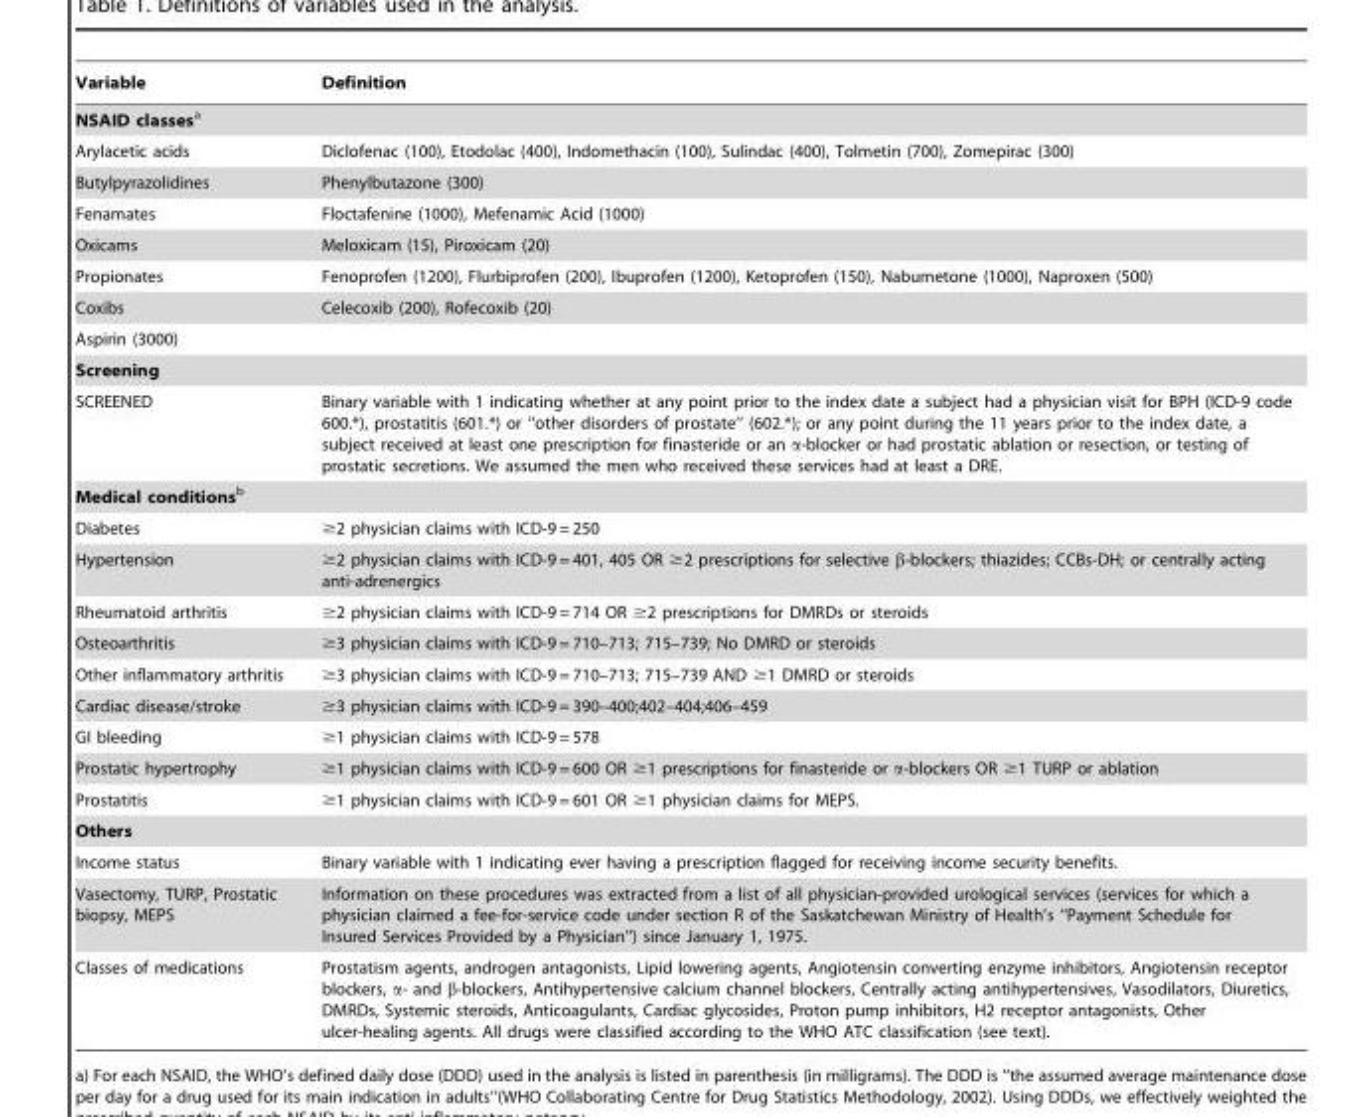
<table><thead><tr><td>Variable</td><td>Definition</td></tr></thead><tbody><tr><td colspan="2">NSAID classesa</td></tr><tr><td>Arylacetic acids</td><td>Diclofenac (100), Etodolac (400), Indomethacin (100), Sulindac (400), Tolmetin (700), Zomepirac (300)</td></tr><tr><td>Butylpyrazolidines</td><td>Phenylbutazone (300)</td></tr><tr><td>Fenamates</td><td>Floctafenine (1000), Mefenamic Acid (1000)</td></tr><tr><td>Oxicams</td><td>Meloxicam (15), Piroxicam (20)</td></tr><tr><td>Propionates</td><td>Fenoprofen (1200), Flurbiprofen (200), Ibuprofen (1200), Ketoprofen (150), Nabumetone (1000), Naproxen (500)</td></tr><tr><td>Coxibs</td><td>Celecoxib (200), Rofecoxib (20)</td></tr><tr><td colspan="2">Aspirin (3000)</td></tr><tr><td colspan="2">Screening</td></tr><tr><td>SCREENED</td><td>Binary variable with 1 indicating whether at any point prior to the index date a subject had a physician visit for BPH (ICD-9 code 600.*), prostatitis (601.*) or ‘‘other disorders of prostate’’ (602.*); or any point during the 11 years prior to the index date, a subject received at least one prescription for finasteride or an a-blocker or had prostatic ablation or resection, or testing of prostatic secretions. We assumed the men who received these services had at least a DRE.</td></tr><tr><td colspan="2">Medical conditionsb</td></tr><tr><td>Diabetes</td><td>≥2 physician claims with ICD-9 = 250</td></tr><tr><td>Hypertension</td><td>≥2 physician claims with ICD-9 = 401, 405 OR ≥2 prescriptions for selective β-blockers; thiazides; CCBs-DH; or centrally acting anti-adrenergics</td></tr><tr><td>Rheumatoid arthritis</td><td>≥2 physician claims with ICD-9 = 714 OR ≥2 prescriptions for DMRDs or steroids</td></tr><tr><td>Osteoarthritis</td><td>≥3 physician claims with ICD-9 = 710–713; 715–739; No DMRD or steroids</td></tr><tr><td>Other inflammatory arthritis</td><td>≥3 physician claims with ICD-9 = 710–713; 715–739 AND ≥1 DMRD or steroids</td></tr><tr><td>Cardiac disease/stroke</td><td>≥3 physician claims with ICD-9 = 390–400;402–404;406–459</td></tr><tr><td>GI bleeding</td><td>≥1 physician claims with ICD-9 = 578</td></tr><tr><td>Prostatic hypertrophy</td><td>≥1 physician claims with ICD-9 = 600 OR ≥1 prescriptions for finasteride or α-blockers OR ≥1 TURP or ablation</td></tr><tr><td>Prostatitis</td><td>≥1 physician claims with ICD-9 = 601 OR ≥1 physician claims for MEPS.</td></tr><tr><td colspan="2">Others</td></tr><tr><td>Income status</td><td>Binary variable with 1 indicating ever having a prescription flagged for receiving income security benefits.</td></tr><tr><td>Vasectomy, TURP, Prostatic biopsy, MEPS</td><td>Information on these procedures was extracted from a list of all physician-provided urological services (services for which a physician claimed a fee-for-service code under section R of the Saskatchewan Ministry of Health’s ‘‘Payment Schedule for Insured Services Provided by a Physician’’) since January 1, 1975.</td></tr><tr><td>Classes of medications</td><td>Prostatism agents, androgen antagonists, Lipid lowering agents, Angiotensin converting enzyme inhibitors, Angiotensin receptor blockers, α- and β-blockers, Antihypertensive calcium channel blockers, Centrally acting antihypertensives, Vasodilators, Diuretics, DMRDs, Systemic steroids, Anticoagulants, Cardiac glycosides, Proton pump inhibitors, H2 receptor antagonists, Other ulcer-healing agents. All drugs were classified according to the WHO ATC classification (see text).</td></tr></tbody></table>